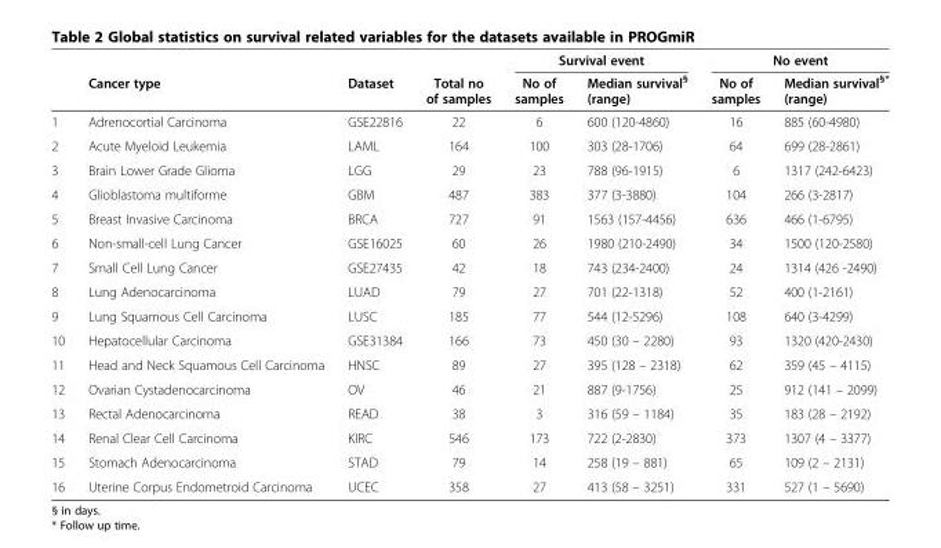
<table><thead><tr><td rowspan="2"></td><td rowspan="2">Cancer type</td><td rowspan="2">Dataset</td><td rowspan="2">Total no of samples</td><td colspan="2">Survival event</td><td colspan="2">No event</td></tr><tr><td>No of samples</td><td>Median survival<sup>§</sup> (range)</td><td>No of samples</td><td>Median survival<sup>§*</sup> (range)</td></tr></thead><tbody><tr><td>1</td><td>Adrenocortial Carcinoma</td><td>GSE22816</td><td>22</td><td>6</td><td>600 (120-4860)</td><td>16</td><td>885 (60-4980)</td></tr><tr><td>2</td><td>Acute Myeloid Leukemia</td><td>LAML</td><td>164</td><td>100</td><td>303 (28-1706)</td><td>64</td><td>699 (28-2861)</td></tr><tr><td>3</td><td>Brain Lower Grade Glioma</td><td>LGG</td><td>29</td><td>23</td><td>788 (96-1915)</td><td>6</td><td>1317 (242-6423)</td></tr><tr><td>4</td><td>Glioblastoma multiforme</td><td>GBM</td><td>487</td><td>383</td><td>377 (3-3880)</td><td>104</td><td>266 (3-2817)</td></tr><tr><td>5</td><td>Breast Invasive Carcinoma</td><td>BRCA</td><td>727</td><td>91</td><td>1563 (157-4456)</td><td>636</td><td>466 (1-6795)</td></tr><tr><td>6</td><td>Non-small-cell Lung Cancer</td><td>GSE16025</td><td>60</td><td>26</td><td>1980 (210-2490)</td><td>34</td><td>1500 (120-2580)</td></tr><tr><td>7</td><td>Small Cell Lung Cancer</td><td>GSE27435</td><td>42</td><td>18</td><td>743 (234-2400)</td><td>24</td><td>1314 (426 -2490)</td></tr><tr><td>8</td><td>Lung Adenocarcinoma</td><td>LUAD</td><td>79</td><td>27</td><td>701 (22-1318)</td><td>52</td><td>400 (1-2161)</td></tr><tr><td>9</td><td>Lung Squamous Cell Carcinoma</td><td>LUSC</td><td>185</td><td>77</td><td>544 (12-5296)</td><td>108</td><td>640 (3-4299)</td></tr><tr><td>10</td><td>Hepatocellular Carcinoma</td><td>GSE31384</td><td>166</td><td>73</td><td>450 (30 – 2280)</td><td>93</td><td>1320 (420-2430)</td></tr><tr><td>11</td><td>Head and Neck Squamous Cell Carcinoma</td><td>HNSC</td><td>89</td><td>27</td><td>395 (128 – 2318)</td><td>62</td><td>359 (45 – 4115)</td></tr><tr><td>12</td><td>Ovarian Cystadenocarcinoma</td><td>OV</td><td>46</td><td>21</td><td>887 (9-1756)</td><td>25</td><td>912 (141 – 2099)</td></tr><tr><td>13</td><td>Rectal Adenocarcinoma</td><td>READ</td><td>38</td><td>3</td><td>316 (59 – 1184)</td><td>35</td><td>183 (28 – 2192)</td></tr><tr><td>14</td><td>Renal Clear Cell Carcinoma</td><td>KIRC</td><td>546</td><td>173</td><td>722 (2-2830)</td><td>373</td><td>1307 (4 – 3377)</td></tr><tr><td>15</td><td>Stomach Adenocarcinoma</td><td>STAD</td><td>79</td><td>14</td><td>258 (19 – 881)</td><td>65</td><td>109 (2 – 2131)</td></tr><tr><td>16</td><td>Uterine Corpus Endometroid Carcinoma</td><td>UCEC</td><td>358</td><td>27</td><td>413 (58 – 3251)</td><td>331</td><td>527 (1 – 5690)</td></tr></tbody></table>